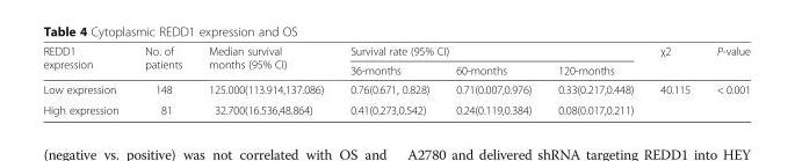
<table><thead><tr><td rowspan="2">REDD1 expression</td><td rowspan="2">No. of patients</td><td rowspan="2">Median survival months (95% CI)</td><td colspan="3">Survival rate (95% CI)</td><td rowspan="2">χ2</td><td rowspan="2">P-value</td></tr><tr><td>36-months</td><td>60-months</td><td>120-months</td></tr></thead><tbody><tr><td>Low expression</td><td>148</td><td>125.000(113.914,137.086)</td><td>0.76(0.671, 0.828)</td><td>0.71(0.007,0.976)</td><td>0.33(0.217,0.448)</td><td>40.115</td><td>&lt; 0.001</td></tr><tr><td>High expression</td><td>81</td><td>32.700(16.536,48.864)</td><td>0.41(0.273,0.542)</td><td>0.24(0.119,0.384)</td><td>0.08(0.017,0.211)</td><td></td><td></td></tr></tbody></table>